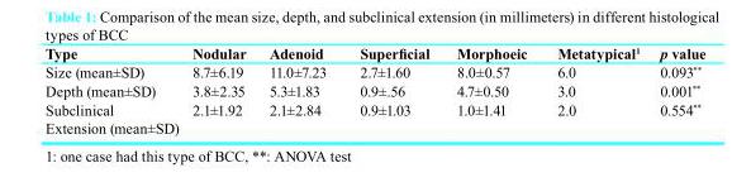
<table><thead><tr><td>Type</td><td>Nodular</td><td>Adenoid</td><td>Superficial</td><td>Morphoeic</td><td>Metatypical<sup>1</sup></td><td>p value</td></tr></thead><tbody><tr><td>Size (mean±SD)</td><td>8.7±6.19</td><td>11.0±7.23</td><td>2.7±1.60</td><td>8.0±0.57</td><td>6.0</td><td>0.093**</td></tr><tr><td>Depth (mean±SD)</td><td>3.8±2.35</td><td>5.3±1.83</td><td>0.9±.56</td><td>4.7±0.50</td><td>3.0</td><td>0.001**</td></tr><tr><td>Subclinical Extension (mean±SD)</td><td>2.1±1.92</td><td>2.1±2.84</td><td>0.9±1.03</td><td>1.0±1.41</td><td>2.0</td><td>0.554**</td></tr></tbody></table>